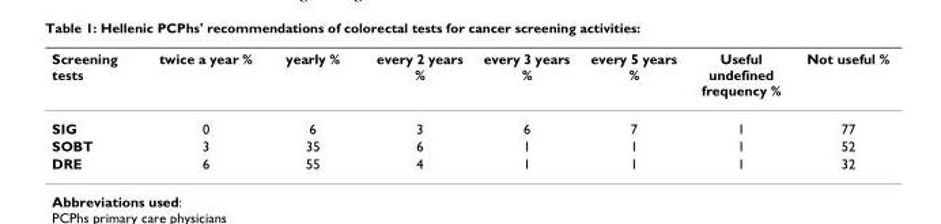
<table><thead><tr><td>Screening tests</td><td>twice a year %</td><td>yearly %</td><td>every 2 years %</td><td>every 3 years %</td><td>every 5 years %</td><td>Useful undefined frequency %</td><td>Not useful %</td></tr></thead><tbody><tr><td>SIG</td><td>0</td><td>6</td><td>3</td><td>6</td><td>7</td><td>1</td><td>77</td></tr><tr><td>SOBT</td><td>3</td><td>35</td><td>6</td><td>1</td><td>1</td><td>1</td><td>52</td></tr><tr><td>DRE</td><td>6</td><td>55</td><td>4</td><td>1</td><td>1</td><td>1</td><td>32</td></tr></tbody></table>